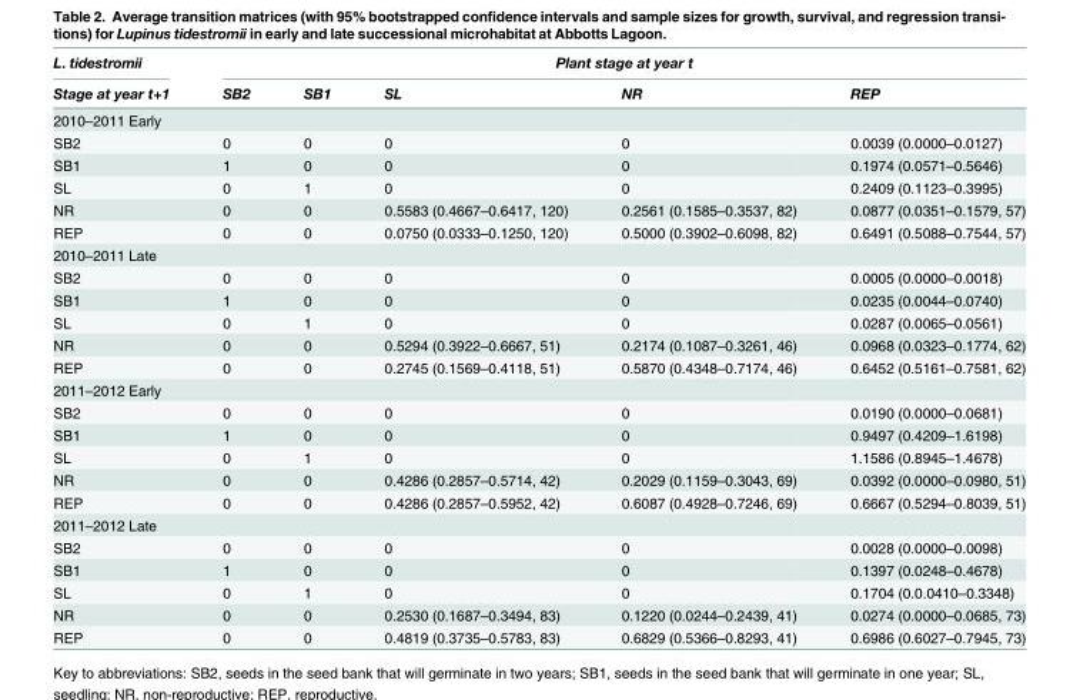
<table><thead><tr><td rowspan="2">L. tidestromii Stage at year t+1</td><td colspan="5">Plant stage at year t</td></tr><tr><td>SB2</td><td>SB1</td><td>SL</td><td>NR</td><td>REP</td></tr></thead><tbody><tr><td colspan="6">2010–2011 Early</td></tr><tr><td>SB2</td><td>0</td><td>0</td><td>0</td><td>0</td><td>0.0039 (0.0000–0.0127)</td></tr><tr><td>SB1</td><td>1</td><td>0</td><td>0</td><td>0</td><td>0.1974 (0.0571–0.5646)</td></tr><tr><td>SL</td><td>0</td><td>1</td><td>0</td><td>0</td><td>0.2409 (0.1123–0.3995)</td></tr><tr><td>NR</td><td>0</td><td>0</td><td>0.5583 (0.4667–0.6417, 120)</td><td>0.2561 (0.1585–0.3537, 82)</td><td>0.0877 (0.0351–0.1579, 57)</td></tr><tr><td>REP</td><td>0</td><td>0</td><td>0.0750 (0.0333–0.1250, 120)</td><td>0.5000 (0.3902–0.6098, 82)</td><td>0.6491 (0.5088–0.7544, 57)</td></tr><tr><td colspan="6">2010–2011 Late</td></tr><tr><td>SB2</td><td>0</td><td>0</td><td>0</td><td>0</td><td>0.0005 (0.0000–0.0018)</td></tr><tr><td>SB1</td><td>1</td><td>0</td><td>0</td><td>0</td><td>0.0235 (0.0044–0.0740)</td></tr><tr><td>SL</td><td>0</td><td>1</td><td>0</td><td>0</td><td>0.0287 (0.0065–0.0561)</td></tr><tr><td>NR</td><td>0</td><td>0</td><td>0.5294 (0.3922–0.6667, 51)</td><td>0.2174 (0.1087–0.3261, 46)</td><td>0.0968 (0.0323–0.1774, 62)</td></tr><tr><td>REP</td><td>0</td><td>0</td><td>0.2745 (0.1569–0.4118, 51)</td><td>0.5870 (0.4348–0.7174, 46)</td><td>0.6452 (0.5161–0.7581, 62)</td></tr><tr><td colspan="6">2011–2012 Early</td></tr><tr><td>SB2</td><td>0</td><td>0</td><td>0</td><td>0</td><td>0.0190 (0.0000–0.0681)</td></tr><tr><td>SB1</td><td>1</td><td>0</td><td>0</td><td>0</td><td>0.9497 (0.4209–1.6198)</td></tr><tr><td>SL</td><td>0</td><td>1</td><td>0</td><td>0</td><td>1.1586 (0.8945–1.4678)</td></tr><tr><td>NR</td><td>0</td><td>0</td><td>0.4286 (0.2857–0.5714, 42)</td><td>0.2029 (0.1159–0.3043, 69)</td><td>0.0392 (0.0000–0.0980, 51)</td></tr><tr><td>REP</td><td>0</td><td>0</td><td>0.4286 (0.2857–0.5952, 42)</td><td>0.6087 (0.4928–0.7246, 69)</td><td>0.6667 (0.5294–0.8039, 51)</td></tr><tr><td colspan="6">2011–2012 Late</td></tr><tr><td>SB2</td><td>0</td><td>0</td><td>0</td><td>0</td><td>0.0028 (0.0000–0.0098)</td></tr><tr><td>SB1</td><td>1</td><td>0</td><td>0</td><td>0</td><td>0.1397 (0.0248–0.4678)</td></tr><tr><td>SL</td><td>0</td><td>1</td><td>0</td><td>0</td><td>0.1704 (0.0.0410–0.3348)</td></tr><tr><td>NR</td><td>0</td><td>0</td><td>0.2530 (0.1687–0.3494, 83)</td><td>0.1220 (0.0244–0.2439, 41)</td><td>0.0274 (0.0000–0.0685, 73)</td></tr><tr><td>REP</td><td>0</td><td>0</td><td>0.4819 (0.3735–0.5783, 83)</td><td>0.6829 (0.5366–0.8293, 41)</td><td>0.6986 (0.6027–0.7945, 73)</td></tr></tbody></table>